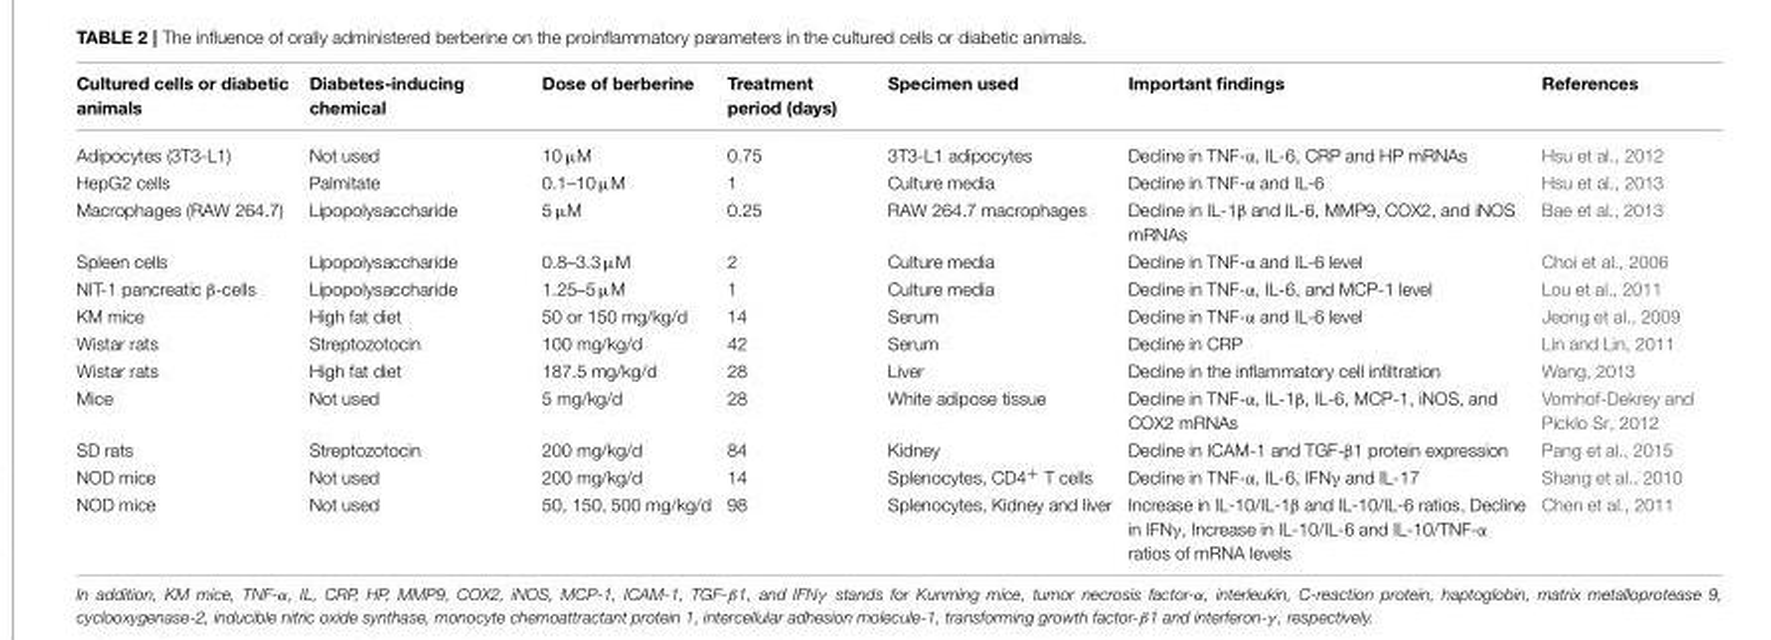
<table><thead><tr><td>Cultured cells or diabetic animals</td><td>Diabetes-inducing chemical</td><td>Dose of berberine</td><td>Treatment period (days)</td><td>Specimen used</td><td>Important findings</td><td>References</td></tr></thead><tbody><tr><td>Adipocytes (3T3-L1)</td><td>Not used</td><td>10 µM</td><td>0.75</td><td>3T3-L1 adipocytes</td><td>Decline in TNF-α, IL-6, CRP and HP mRNAs</td><td>Hsu et al., 2012</td></tr><tr><td>HepG2 cells</td><td>Palmitate</td><td>0.1–10 µM</td><td>1</td><td>Culture media</td><td>Decline in TNF-α and IL-6</td><td>Hsu et al., 2013</td></tr><tr><td>Macrophages (RAW 264.7)</td><td>Lipopolysaccharide</td><td>5 µM</td><td>0.25</td><td>RAW 264.7 macrophages</td><td>Decline in IL-1β and IL-6, MMP9, COX2, and iNOS mRNAs</td><td>Bae et al., 2013</td></tr><tr><td>Spleen cells</td><td>Lipopolysaccharide</td><td>0.8–3.3 µM</td><td>2</td><td>Culture media</td><td>Decline in TNF-α and IL-6 level</td><td>Choi et al., 2006</td></tr><tr><td>NIT-1 pancreatic β-cells</td><td>Lipopolysaccharide</td><td>1.25–5 µM</td><td>1</td><td>Culture media</td><td>Decline in TNF-α, IL-6, and MCP-1 level</td><td>Lou et al., 2011</td></tr><tr><td>KM mice</td><td>High fat diet</td><td>50 or 150 mg/kg/d</td><td>14</td><td>Serum</td><td>Decline in TNF-α and IL-6 level</td><td>Jeong et al., 2009</td></tr><tr><td>Wistar rats</td><td>Streptozotocin</td><td>100 mg/kg/d</td><td>42</td><td>Serum</td><td>Decline in CRP</td><td>Lin and Lin, 2011</td></tr><tr><td>Wistar rats</td><td>High fat diet</td><td>187.5 mg/kg/d</td><td>28</td><td>Liver</td><td>Decline in the inflammatory cell infiltration</td><td>Wang, 2013</td></tr><tr><td>Mice</td><td>Not used</td><td>5 mg/kg/d</td><td>28</td><td>White adipose tissue</td><td>Decline in TNF-α, IL-1β, IL-6, MCP-1, iNOS, and COX2 mRNAs</td><td>Vomhof-Dekrey and Picklo Sr, 2012</td></tr><tr><td>SD rats</td><td>Streptozotocin</td><td>200 mg/kg/d</td><td>84</td><td>Kidney</td><td>Decline in ICAM-1 and TGF-β1 protein expression</td><td>Pang et al., 2015</td></tr><tr><td>NOD mice</td><td>Not used</td><td>200 mg/kg/d</td><td>14</td><td>Splenocytes, CD4<sup>+</sup> T cells</td><td>Decline in TNF-α, IL-6, IFNγ and IL-17</td><td>Shang et al., 2010</td></tr><tr><td>NOD mice</td><td>Not used</td><td>50, 150, 500 mg/kg/d</td><td>98</td><td>Splenocytes, Kidney and liver</td><td>Increase in IL-10/IL-1β and IL-10/IL-6 ratios, Decline in IFNγ, Increase in IL-10/IL-6 and IL-10/TNF-α ratios of mRNA levels</td><td>Chen et al., 2011</td></tr></tbody></table>